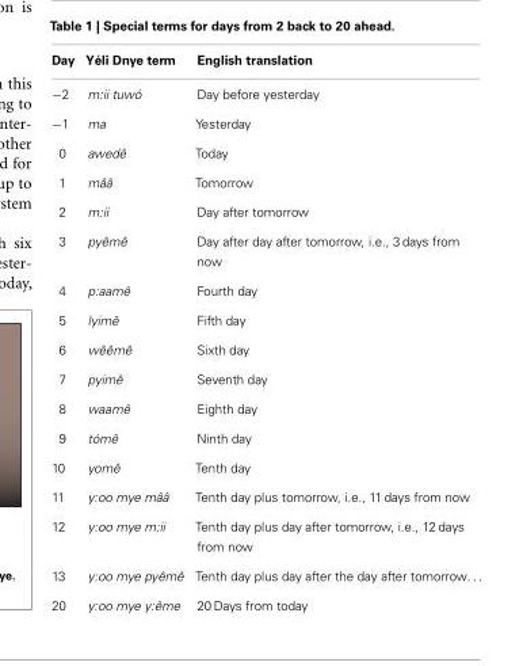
<table><thead><tr><td>Day</td><td>Yélî Dnye term</td><td>English translation</td></tr></thead><tbody><tr><td>−2</td><td>m:ii tuwó</td><td>Day before yesterday</td></tr><tr><td>−1</td><td>ma</td><td>Yesterday</td></tr><tr><td>0</td><td>awedê</td><td>Today</td></tr><tr><td>1</td><td>mââ</td><td>Tomorrow</td></tr><tr><td>2</td><td>m:ii</td><td>Day after tomorrow</td></tr><tr><td>3</td><td>pyêmê</td><td>Day after day after tomorrow, i.e., 3 days from now</td></tr><tr><td>4</td><td>p:aamê</td><td>Fourth day</td></tr><tr><td>5</td><td>lyimê</td><td>Fifth day</td></tr><tr><td>6</td><td>wêêmê</td><td>Sixth day</td></tr><tr><td>7</td><td>pyimê</td><td>Seventh day</td></tr><tr><td>8</td><td>waamê</td><td>Eighth day</td></tr><tr><td>9</td><td>tómê</td><td>Ninth day</td></tr><tr><td>10</td><td>yomê</td><td>Tenth day</td></tr><tr><td>11</td><td>y:oo mye mââ</td><td>Tenth day plus tomorrow, i.e., 11 days from now</td></tr><tr><td>12</td><td>y:oo mye m:ii</td><td>Tenth day plus day after tomorrow, i.e., 12 days from now</td></tr><tr><td>13</td><td>y:oo mye pyêmê</td><td>Tenth day plus day after the day after tomorrow…</td></tr><tr><td>20</td><td>y:oo mye y:ême</td><td>20 Days from today</td></tr></tbody></table>